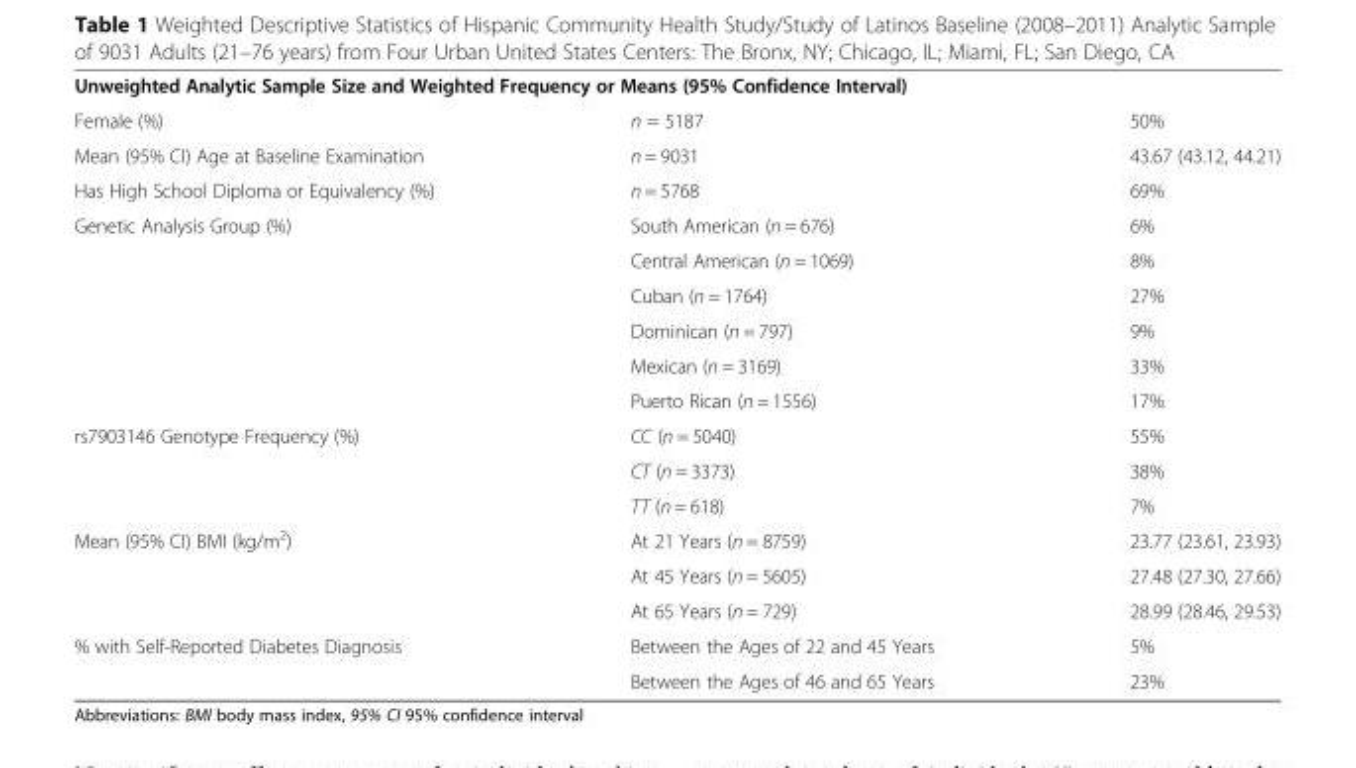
<table><tbody><tr><td colspan="3">Unweighted Analytic Sample Size and Weighted Frequency or Means (95% Confidence Interval)</td></tr><tr><td>Female (%)</td><td>n = 5187</td><td>50%</td></tr><tr><td>Mean (95% CI) Age at Baseline Examination</td><td>n = 9031</td><td>43.67 (43.12, 44.21)</td></tr><tr><td>Has High School Diploma or Equivalency (%)</td><td>n = 5768</td><td>69%</td></tr><tr><td rowspan="6">Genetic Analysis Group (%)</td><td>South American (n = 676)</td><td>6%</td></tr><tr><td>Central American (n = 1069)</td><td>8%</td></tr><tr><td>Cuban (n = 1764)</td><td>27%</td></tr><tr><td>Dominican (n = 797)</td><td>9%</td></tr><tr><td>Mexican (n = 3169)</td><td>33%</td></tr><tr><td>Puerto Rican (n = 1556)</td><td>17%</td></tr><tr><td rowspan="3">rs7903146 Genotype Frequency (%)</td><td>CC (n = 5040)</td><td>55%</td></tr><tr><td>CT (n = 3373)</td><td>38%</td></tr><tr><td>TT (n = 618)</td><td>7%</td></tr><tr><td rowspan="3">Mean (95% CI) BMI (kg/m<sup>2</sup>)</td><td>At 21 Years (n = 8759)</td><td>23.77 (23.61, 23.93)</td></tr><tr><td>At 45 Years (n = 5605)</td><td>27.48 (27.30, 27.66)</td></tr><tr><td>At 65 Years (n = 729)</td><td>28.99 (28.46, 29.53)</td></tr><tr><td rowspan="2">% with Self-Reported Diabetes Diagnosis</td><td>Between the Ages of 22 and 45 Years</td><td>5%</td></tr><tr><td>Between the Ages of 46 and 65 Years</td><td>23%</td></tr></tbody></table>